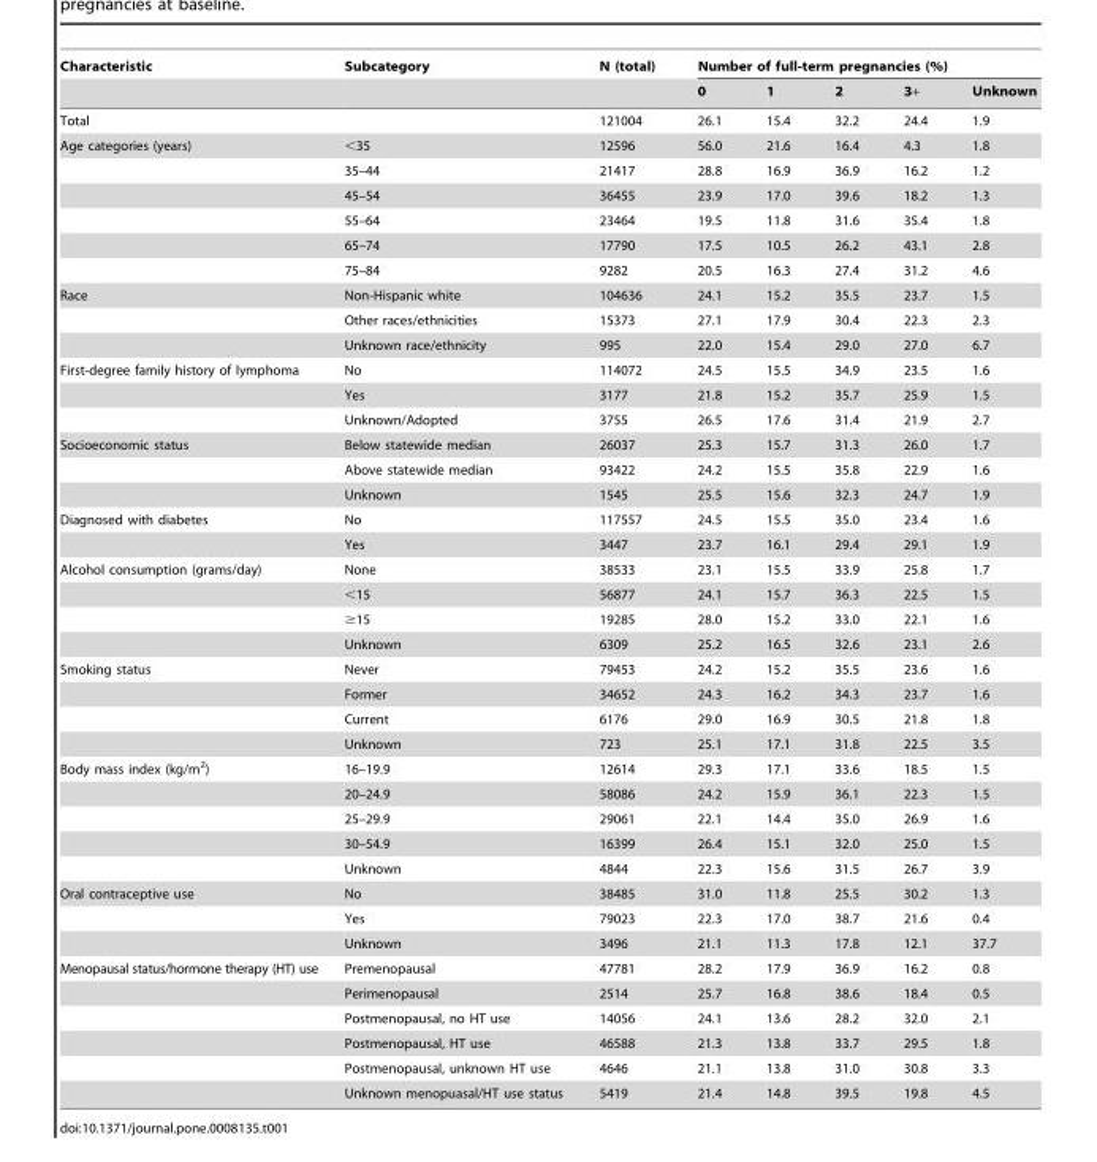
<table><thead><tr><td rowspan="2">Characteristic</td><td rowspan="2">Subcategory</td><td rowspan="2">N (total)</td><td colspan="5">Number of full-term pregnancies (%)</td></tr><tr><td>0</td><td>1</td><td>2</td><td>3+</td><td>Unknown</td></tr></thead><tbody><tr><td>Total</td><td></td><td>121004</td><td>26.1</td><td>15.4</td><td>32.2</td><td>24.4</td><td>1.9</td></tr><tr><td rowspan="6">Age categories (years)</td><td>&lt;35</td><td>12596</td><td>56.0</td><td>21.6</td><td>16.4</td><td>4.3</td><td>1.8</td></tr><tr><td>35–44</td><td>21417</td><td>28.8</td><td>16.9</td><td>36.9</td><td>16.2</td><td>1.2</td></tr><tr><td>45–54</td><td>36455</td><td>23.9</td><td>17.0</td><td>39.6</td><td>18.2</td><td>1.3</td></tr><tr><td>55–64</td><td>23464</td><td>19.5</td><td>11.8</td><td>31.6</td><td>35.4</td><td>1.8</td></tr><tr><td>65–74</td><td>17790</td><td>17.5</td><td>10.5</td><td>26.2</td><td>43.1</td><td>2.8</td></tr><tr><td>75–84</td><td>9282</td><td>20.5</td><td>16.3</td><td>27.4</td><td>31.2</td><td>4.6</td></tr><tr><td rowspan="3">Race</td><td>Non-Hispanic white</td><td>104636</td><td>24.1</td><td>15.2</td><td>35.5</td><td>23.7</td><td>1.5</td></tr><tr><td>Other races/ethnicities</td><td>15373</td><td>27.1</td><td>17.9</td><td>30.4</td><td>22.3</td><td>2.3</td></tr><tr><td>Unknown race/ethnicity</td><td>995</td><td>22.0</td><td>15.4</td><td>29.0</td><td>27.0</td><td>6.7</td></tr><tr><td rowspan="3">First-degree family history of lymphoma</td><td>No</td><td>114072</td><td>24.5</td><td>15.5</td><td>34.9</td><td>23.5</td><td>1.6</td></tr><tr><td>Yes</td><td>3177</td><td>21.8</td><td>15.2</td><td>35.7</td><td>25.9</td><td>1.5</td></tr><tr><td>Unknown/Adopted</td><td>3755</td><td>26.5</td><td>17.6</td><td>31.4</td><td>21.9</td><td>2.7</td></tr><tr><td rowspan="3">Socioeconomic status</td><td>Below statewide median</td><td>26037</td><td>25.3</td><td>15.7</td><td>31.3</td><td>26.0</td><td>1.7</td></tr><tr><td>Above statewide median</td><td>93422</td><td>24.2</td><td>15.5</td><td>35.8</td><td>22.9</td><td>1.6</td></tr><tr><td>Unknown</td><td>1545</td><td>25.5</td><td>15.6</td><td>32.3</td><td>24.7</td><td>1.9</td></tr><tr><td rowspan="2">Diagnosed with diabetes</td><td>No</td><td>117557</td><td>24.5</td><td>15.5</td><td>35.0</td><td>23.4</td><td>1.6</td></tr><tr><td>Yes</td><td>3447</td><td>23.7</td><td>16.1</td><td>29.4</td><td>29.1</td><td>1.9</td></tr><tr><td rowspan="4">Alcohol consumption (grams/day)</td><td>None</td><td>38533</td><td>23.1</td><td>15.5</td><td>33.9</td><td>25.8</td><td>1.7</td></tr><tr><td>&lt;15</td><td>56877</td><td>24.1</td><td>15.7</td><td>36.3</td><td>22.5</td><td>1.5</td></tr><tr><td>≥15</td><td>19285</td><td>28.0</td><td>15.2</td><td>33.0</td><td>22.1</td><td>1.6</td></tr><tr><td>Unknown</td><td>6309</td><td>25.2</td><td>16.5</td><td>32.6</td><td>23.1</td><td>2.6</td></tr><tr><td rowspan="4">Smoking status</td><td>Never</td><td>79453</td><td>24.2</td><td>15.2</td><td>35.5</td><td>23.6</td><td>1.6</td></tr><tr><td>Former</td><td>34652</td><td>24.3</td><td>16.2</td><td>34.3</td><td>23.7</td><td>1.6</td></tr><tr><td>Current</td><td>6176</td><td>29.0</td><td>16.9</td><td>30.5</td><td>21.8</td><td>1.8</td></tr><tr><td>Unknown</td><td>723</td><td>25.1</td><td>17.1</td><td>31.8</td><td>22.5</td><td>3.5</td></tr><tr><td rowspan="5">Body mass index (kg/m<sup>2</sup>)</td><td>16–19.9</td><td>12614</td><td>29.3</td><td>17.1</td><td>33.6</td><td>18.5</td><td>1.5</td></tr><tr><td>20–24.9</td><td>58086</td><td>24.2</td><td>15.9</td><td>36.1</td><td>22.3</td><td>1.5</td></tr><tr><td>25–29.9</td><td>29061</td><td>22.1</td><td>14.4</td><td>35.0</td><td>26.9</td><td>1.6</td></tr><tr><td>30–54.9</td><td>16399</td><td>26.4</td><td>15.1</td><td>32.0</td><td>25.0</td><td>1.5</td></tr><tr><td>Unknown</td><td>4844</td><td>22.3</td><td>15.6</td><td>31.5</td><td>26.7</td><td>3.9</td></tr><tr><td rowspan="3">Oral contraceptive use</td><td>No</td><td>38485</td><td>31.0</td><td>11.8</td><td>25.5</td><td>30.2</td><td>1.3</td></tr><tr><td>Yes</td><td>79023</td><td>22.3</td><td>17.0</td><td>38.7</td><td>21.6</td><td>0.4</td></tr><tr><td>Unknown</td><td>3496</td><td>21.1</td><td>11.3</td><td>17.8</td><td>12.1</td><td>37.7</td></tr><tr><td rowspan="6">Menopausal status/hormone therapy (HT) use</td><td>Premenopausal</td><td>47781</td><td>28.2</td><td>17.9</td><td>36.9</td><td>16.2</td><td>0.8</td></tr><tr><td>Perimenopausal</td><td>2514</td><td>25.7</td><td>16.8</td><td>38.6</td><td>18.4</td><td>0.5</td></tr><tr><td>Postmenopausal, no HT use</td><td>14056</td><td>24.1</td><td>13.6</td><td>28.2</td><td>32.0</td><td>2.1</td></tr><tr><td>Postmenopausal, HT use</td><td>46588</td><td>21.3</td><td>13.8</td><td>33.7</td><td>29.5</td><td>1.8</td></tr><tr><td>Postmenopausal, unknown HT use</td><td>4646</td><td>21.1</td><td>13.8</td><td>31.0</td><td>30.8</td><td>3.3</td></tr><tr><td>Unknown menopuasal/HT use status</td><td>5419</td><td>21.4</td><td>14.8</td><td>39.5</td><td>19.8</td><td>4.5</td></tr></tbody></table>